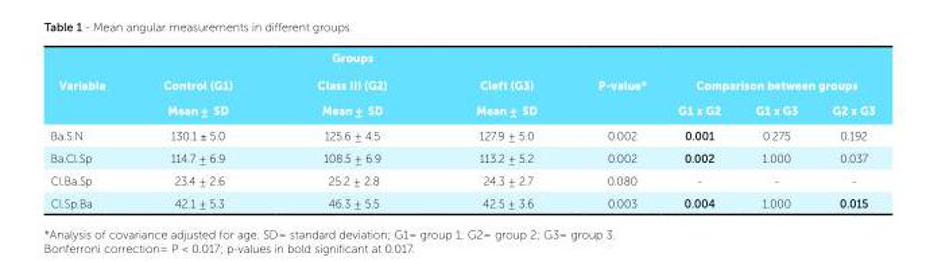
<table><thead><tr><td rowspan="3">Variable</td><td colspan="3">Groups</td><td rowspan="3">P-value*</td><td></td><td></td><td></td></tr><tr><td rowspan="2">Control (G1) Mean ± SD</td><td rowspan="2">Class III (G2) Mean ± SD</td><td rowspan="2">Cleft (G3) Mean ± SD</td><td colspan="3">Comparison between groups</td></tr><tr><td>G1 x G2</td><td>G1 x G3</td><td>G2 x G3</td></tr></thead><tbody><tr><td>Ba.S.N</td><td>130.1 ± 5.0</td><td>125.6 ± 4.5</td><td>127.9 ± 5.0</td><td>0.002</td><td>0.001</td><td>0.275</td><td>0.192</td></tr><tr><td>Ba.Cl.Sp</td><td>114.7 ± 6.9</td><td>108.5 ± 6.9</td><td>113.2 ± 5.2</td><td>0.002</td><td>0.002</td><td>1.000</td><td>0.037</td></tr><tr><td>Cl.Ba.Sp</td><td>23.4 ± 2.6</td><td>25.2 ± 2.8</td><td>24.3 ± 2.7</td><td>0.080</td><td>-</td><td>-</td><td>-</td></tr><tr><td>Cl.Sp.Ba</td><td>42.1 ± 5.3</td><td>46.3 ± 5.5</td><td>42.5 ± 3.6</td><td>0.003</td><td>0.004</td><td>1.000</td><td>0.015</td></tr></tbody></table>